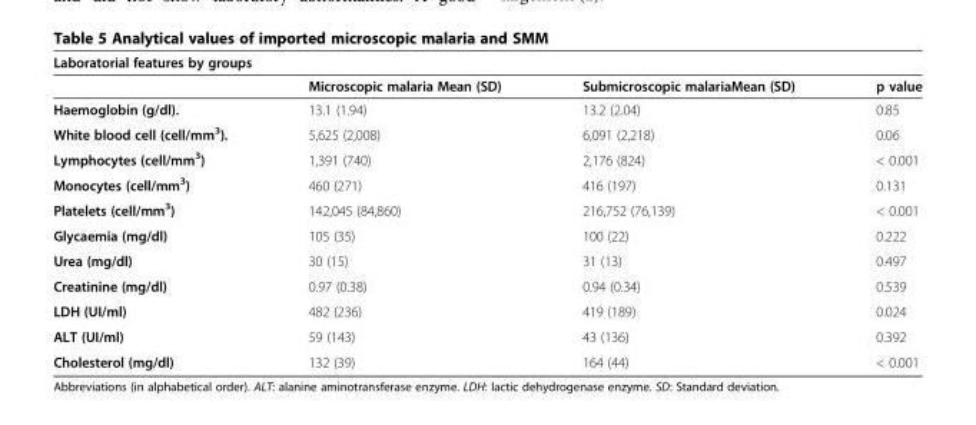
<table><thead><tr><td rowspan="2">Laboratorial features by groups</td><td rowspan="2">Microscopic malaria Mean (SD)</td><td rowspan="2">Submicroscopic malariaMean (SD)</td><td rowspan="2">p value</td></tr><tr></tr></thead><tbody><tr><td>Haemoglobin (g/dl).</td><td>13.1 (1.94)</td><td>13.2 (2.04)</td><td>0.85</td></tr><tr><td>White blood cell (cell/mm<sup>3</sup>).</td><td>5,625 (2,008)</td><td>6,091 (2,218)</td><td>0.06</td></tr><tr><td>Lymphocytes (cell/mm<sup>3</sup>)</td><td>1,391 (740)</td><td>2,176 (824)</td><td>&lt; 0.001</td></tr><tr><td>Monocytes (cell/mm<sup>3</sup>)</td><td>460 (271)</td><td>416 (197)</td><td>0.131</td></tr><tr><td>Platelets (cell/mm<sup>3</sup>)</td><td>142,045 (84,860)</td><td>216,752 (76,139)</td><td>&lt; 0.001</td></tr><tr><td>Glycaemia (mg/dl)</td><td>105 (35)</td><td>100 (22)</td><td>0.222</td></tr><tr><td>Urea (mg/dl)</td><td>30 (15)</td><td>31 (13)</td><td>0.497</td></tr><tr><td>Creatinine (mg/dl)</td><td>0.97 (0.38)</td><td>0.94 (0.34)</td><td>0.539</td></tr><tr><td>LDH (UI/ml)</td><td>482 (236)</td><td>419 (189)</td><td>0.024</td></tr><tr><td>ALT (UI/ml)</td><td>59 (143)</td><td>43 (136)</td><td>0.392</td></tr><tr><td>Cholesterol (mg/dl)</td><td>132 (39)</td><td>164 (44)</td><td>&lt; 0.001</td></tr></tbody></table>